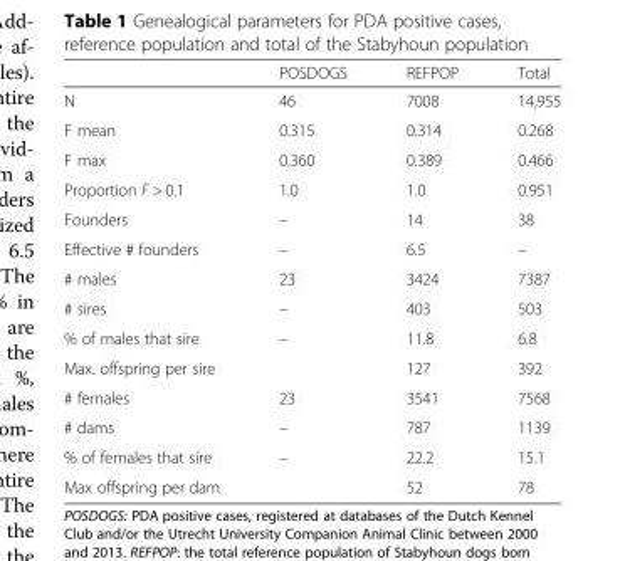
<table><thead><tr><td></td><td>POSDOGS</td><td>REFPOP</td><td>Total</td></tr></thead><tbody><tr><td>N</td><td>46</td><td>7008</td><td>14,955</td></tr><tr><td>F mean</td><td>0.315</td><td>0.314</td><td>0.268</td></tr><tr><td>F max</td><td>0.360</td><td>0.389</td><td>0.466</td></tr><tr><td>Proportion F &gt; 0.1</td><td>1.0</td><td>1.0</td><td>0.951</td></tr><tr><td>Founders</td><td>–</td><td>14</td><td>38</td></tr><tr><td>Effective # founders</td><td>–</td><td>6.5</td><td>–</td></tr><tr><td># males</td><td>23</td><td>3424</td><td>7387</td></tr><tr><td># sires</td><td>–</td><td>403</td><td>503</td></tr><tr><td>% of males that sire</td><td>–</td><td>11.8</td><td>6.8</td></tr><tr><td>Max. offspring per sire</td><td></td><td>127</td><td>392</td></tr><tr><td># females</td><td>23</td><td>3541</td><td>7568</td></tr><tr><td># dams</td><td>–</td><td>787</td><td>1139</td></tr><tr><td>% of females that sire</td><td>–</td><td>22.2</td><td>15.1</td></tr><tr><td>Max offspring per dam</td><td></td><td>52</td><td>78</td></tr></tbody></table>